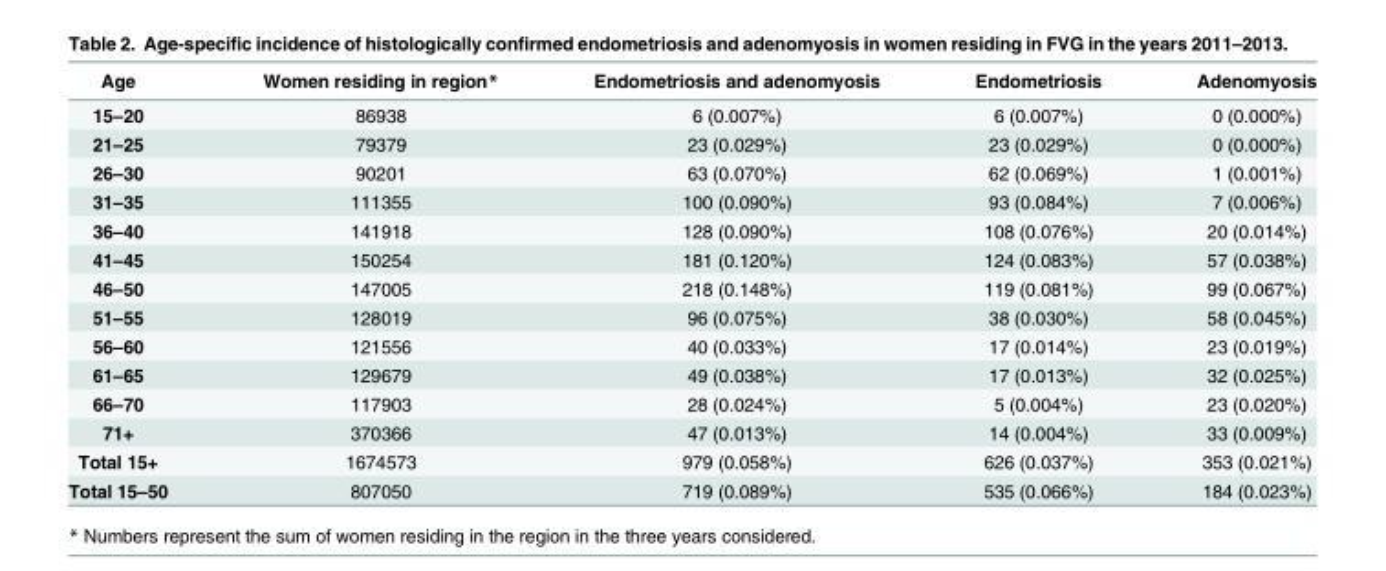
<table><thead><tr><td>Age</td><td>Women residing in region*</td><td>Endometriosis and adenomyosis</td><td>Endometriosis</td><td>Adenomyosis</td></tr></thead><tbody><tr><td>15–20</td><td>86938</td><td>6 (0.007%)</td><td>6 (0.007%)</td><td>0 (0.000%)</td></tr><tr><td>21–25</td><td>79379</td><td>23 (0.029%)</td><td>23 (0.029%)</td><td>0 (0.000%)</td></tr><tr><td>26–30</td><td>90201</td><td>63 (0.070%)</td><td>62 (0.069%)</td><td>1 (0.001%)</td></tr><tr><td>31–35</td><td>111355</td><td>100 (0.090%)</td><td>93 (0.084%)</td><td>7 (0.006%)</td></tr><tr><td>36–40</td><td>141918</td><td>128 (0.090%)</td><td>108 (0.076%)</td><td>20 (0.014%)</td></tr><tr><td>41–45</td><td>150254</td><td>181 (0.120%)</td><td>124 (0.083%)</td><td>57 (0.038%)</td></tr><tr><td>46–50</td><td>147005</td><td>218 (0.148%)</td><td>119 (0.081%)</td><td>99 (0.067%)</td></tr><tr><td>51–55</td><td>128019</td><td>96 (0.075%)</td><td>38 (0.030%)</td><td>58 (0.045%)</td></tr><tr><td>56–60</td><td>121556</td><td>40 (0.033%)</td><td>17 (0.014%)</td><td>23 (0.019%)</td></tr><tr><td>61–65</td><td>129679</td><td>49 (0.038%)</td><td>17 (0.013%)</td><td>32 (0.025%)</td></tr><tr><td>66–70</td><td>117903</td><td>28 (0.024%)</td><td>5 (0.004%)</td><td>23 (0.020%)</td></tr><tr><td>71+</td><td>370366</td><td>47 (0.013%)</td><td>14 (0.004%)</td><td>33 (0.009%)</td></tr><tr><td>Total 15+</td><td>1674573</td><td>979 (0.058%)</td><td>626 (0.037%)</td><td>353 (0.021%)</td></tr><tr><td>Total 15–50</td><td>807050</td><td>719 (0.089%)</td><td>535 (0.066%)</td><td>184 (0.023%)</td></tr></tbody></table>